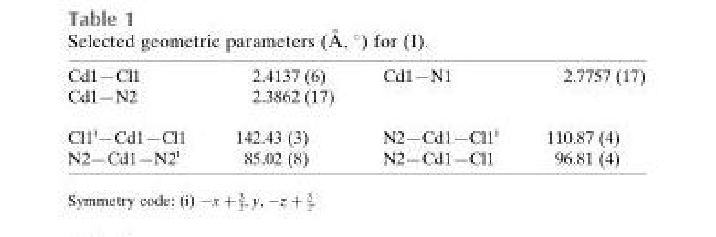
<table><tbody><tr><td>Cd1—Cl1</td><td>2.4137 (6)</td><td>Cd1—N1</td><td>2.7757 (17)</td></tr><tr><td>Cd1—N2</td><td>2.3862 (17)</td><td></td><td></td></tr><tr><td>Cl1<sup>i</sup>—Cd1—Cl1</td><td>142.43 (3)</td><td>N2—Cd1—Cl1<sup>i</sup></td><td>110.87 (4)</td></tr><tr><td>N2—Cd1—N2<sup>i</sup></td><td>85.02 (8)</td><td>N2—Cd1—Cl1</td><td>96.81 (4)</td></tr></tbody></table>